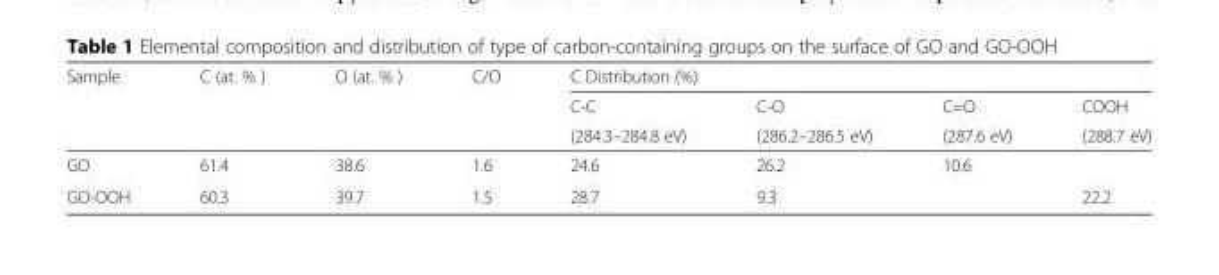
<table><thead><tr><td rowspan="3">Sample</td><td rowspan="3">C (at. % )</td><td rowspan="3">O (at. % )</td><td rowspan="3">C/O</td><td colspan="4">C Distribution (%)</td></tr><tr><td rowspan="2">C-C (284.3–284.8 eV)</td><td rowspan="2">C-O (286.2–286.5 eV)</td><td rowspan="2">C=O (287.6 eV)</td><td rowspan="2">COOH (288.7 eV)</td></tr><tr></tr></thead><tbody><tr><td>GO</td><td>61.4</td><td>38.6</td><td>1.6</td><td>24.6</td><td>26.2</td><td>10.6</td><td></td></tr><tr><td>GO-OOH</td><td>60.3</td><td>39.7</td><td>1.5</td><td>28.7</td><td>9.3</td><td></td><td>22.2</td></tr></tbody></table>